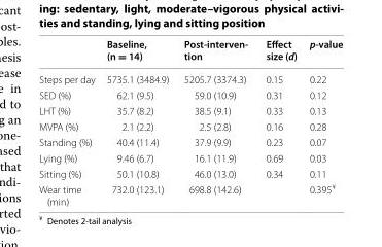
<table><thead><tr><td></td><td>Baseline, (n = 14)</td><td>Post-interven- tion</td><td>Effect size (d)</td><td>p-value</td></tr></thead><tbody><tr><td>Steps per day</td><td>5735.1 (3484.9)</td><td>5205.7 (3374.3)</td><td>0.15</td><td>0.22</td></tr><tr><td>SED (%)</td><td>62.1 (9.5)</td><td>59.0 (10.9)</td><td>0.31</td><td>0.12</td></tr><tr><td>LHT (%)</td><td>35.7 (8.2)</td><td>38.5 (9.1)</td><td>0.33</td><td>0.13</td></tr><tr><td>MVPA (%)</td><td>2.1 (2.2)</td><td>2.5 (2.8)</td><td>0.16</td><td>0.28</td></tr><tr><td>Standing (%)</td><td>40.4 (11.4)</td><td>37.9 (9.9)</td><td>0.23</td><td>0.07</td></tr><tr><td>Lying (%)</td><td>9.46 (6.7)</td><td>16.1 (11.9)</td><td>0.69</td><td>0.03</td></tr><tr><td>Sitting (%)</td><td>50.1 (10.8)</td><td>46.0 (13.0)</td><td>0.34</td><td>0.11</td></tr><tr><td>Wear time (min)</td><td>732.0 (123.1)</td><td>698.8 (142.6)</td><td></td><td>0.395<sup>¥</sup></td></tr></tbody></table>